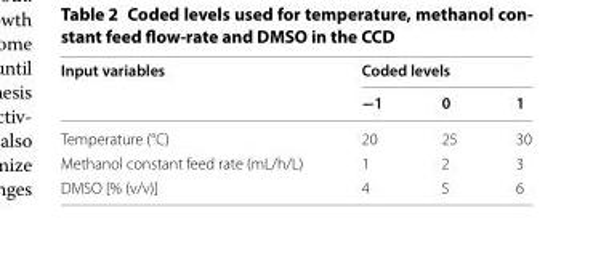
<table><thead><tr><td rowspan="2">Input variables</td><td colspan="3">Coded levels</td></tr><tr><td>−1</td><td>0</td><td>1</td></tr></thead><tbody><tr><td>Temperature (°C)</td><td>20</td><td>25</td><td>30</td></tr><tr><td>Methanol constant feed rate (mL/h/L)</td><td>1</td><td>2</td><td>3</td></tr><tr><td>DMSO [% (v/v)]</td><td>4</td><td>5</td><td>6</td></tr></tbody></table>